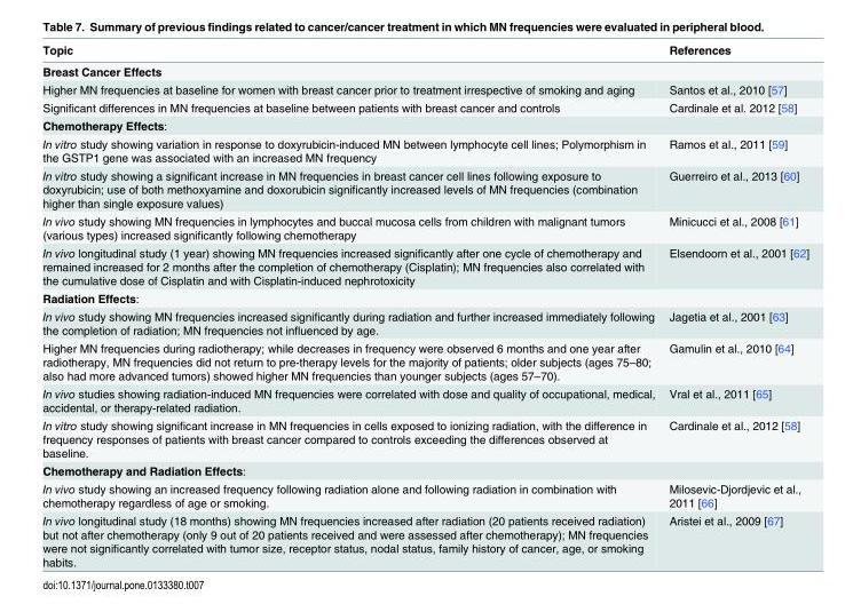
<table><thead><tr><td>Topic</td><td>References</td></tr></thead><tbody><tr><td colspan="2">Breast Cancer Effects</td></tr><tr><td>Higher MN frequencies at baseline for women with breast cancer prior to treatment irrespective of smoking and aging</td><td>Santos et al., 2010 [57]</td></tr><tr><td>Significant differences in MN frequencies at baseline between patients with breast cancer and controls</td><td>Cardinale et al. 2012 [58]</td></tr><tr><td colspan="2">Chemotherapy Effects:</td></tr><tr><td>In vitro study showing variation in response to doxyrubicin-induced MN between lymphocyte cell lines; Polymorphism in the GSTP1 gene was associated with an increased MN frequency</td><td>Ramos et al., 2011 [59]</td></tr><tr><td>In vitro study showing a significant increase in MN frequencies in breast cancer cell lines following exposure to doxyrubicin; use of both methoxyamine and doxorubicin significantly increased levels of MN frequencies (combination higher than single exposure values)</td><td>Guerreiro et al., 2013 [60]</td></tr><tr><td>In vivo study showing MN frequencies in lymphocytes and buccal mucosa cells from children with malignant tumors (various types) increased significantly following chemotherapy</td><td>Minicucci et al., 2008 [61]</td></tr><tr><td>In vivo longitudinal study (1 year) showing MN frequencies increased significantly after one cycle of chemotherapy and remained increased for 2 months after the completion of chemotherapy (Cisplatin); MN frequencies also correlated with the cumulative dose of Cisplatin and with Cisplatin-induced nephrotoxicity</td><td>Elsendoorn et al., 2001 [62]</td></tr><tr><td colspan="2">Radiation Effects:</td></tr><tr><td>In vivo study showing MN frequencies increased significantly during radiation and further increased immediately following the completion of radiation; MN frequencies not influenced by age.</td><td>Jagetia et al., 2001 [63]</td></tr><tr><td>Higher MN frequencies during radiotherapy; while decreases in frequency were observed 6 months and one year after radiotherapy, MN frequencies did not return to pre-therapy levels for the majority of patients; older subjects (ages 75–80; also had more advanced tumors) showed higher MN frequencies than younger subjects (ages 57–70).</td><td>Gamulin et al., 2010 [64]</td></tr><tr><td>In vivo studies showing radiation-induced MN frequencies were correlated with dose and quality of occupational, medical, accidental, or therapy-related radiation.</td><td>Vral et al., 2011 [65]</td></tr><tr><td>In vitro study showing significant increase in MN frequencies in cells exposed to ionizing radiation, with the difference in frequency responses of patients with breast cancer compared to controls exceeding the differences observed at baseline.</td><td>Cardinale et al., 2012 [58]</td></tr><tr><td colspan="2">Chemotherapy and Radiation Effects:</td></tr><tr><td>In vivo study showing an increased frequency following radiation alone and following radiation in combination with chemotherapy regardless of age or smoking.</td><td>Milosevic-Djordjevic et al., 2011 [66]</td></tr><tr><td>In vivo longitudinal study (18 months) showing MN frequencies increased after radiation (20 patients received radiation) but not after chemotherapy (only 9 out of 20 patients received and were assessed after chemotherapy); MN frequencies were not significantly correlated with tumor size, receptor status, nodal status, family history of cancer, age, or smoking habits.</td><td>Aristei et al., 2009 [67]</td></tr></tbody></table>